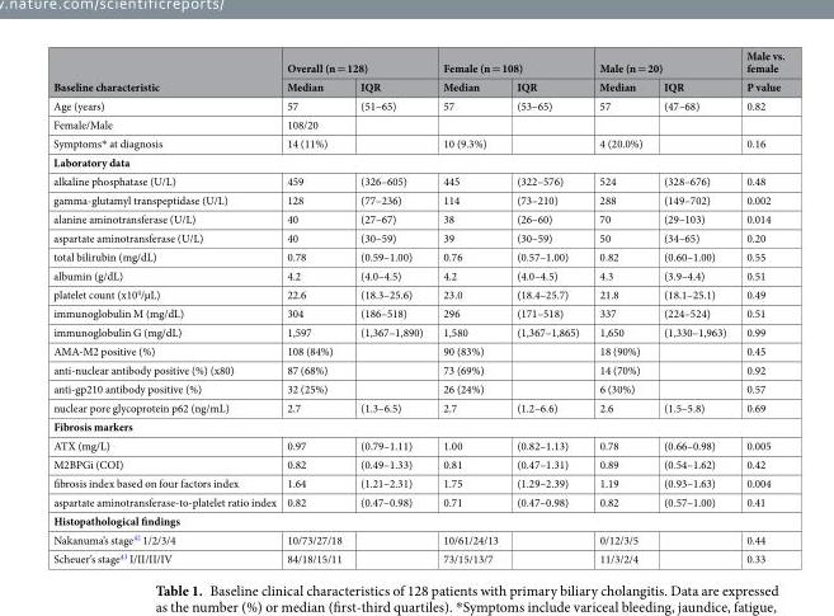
<table><thead><tr><td rowspan="2">Baseline characteristic</td><td colspan="2">Overall (n = 128)</td><td colspan="2">Female (n = 108)</td><td colspan="2">Male (n = 20)</td><td rowspan="2">Male vs. female P value</td></tr><tr><td>Median</td><td>IQR</td><td>Median</td><td>IQR</td><td>Median</td><td>IQR</td></tr></thead><tbody><tr><td>Age (years)</td><td>57</td><td>(51–65)</td><td>57</td><td>(53–65)</td><td>57</td><td>(47–68)</td><td>0.82</td></tr><tr><td>Female/Male</td><td>108/20</td><td></td><td></td><td></td><td></td><td></td><td></td></tr><tr><td>Symptoms* at diagnosis</td><td>14 (11%)</td><td></td><td>10 (9.3%)</td><td></td><td>4 (20.0%)</td><td></td><td>0.16</td></tr><tr><td colspan="8">Laboratory data</td></tr><tr><td>alkaline phosphatase (U/L)</td><td>459</td><td>(326–605)</td><td>445</td><td>(322–576)</td><td>524</td><td>(328–676)</td><td>0.48</td></tr><tr><td>gamma-glutamyl transpeptidase (U/L)</td><td>128</td><td>(77–236)</td><td>114</td><td>(73–210)</td><td>288</td><td>(149–702)</td><td>0.002</td></tr><tr><td>alanine aminotransferase (U/L)</td><td>40</td><td>(27–67)</td><td>38</td><td>(26–60)</td><td>70</td><td>(29–103)</td><td>0.014</td></tr><tr><td>aspartate aminotransferase (U/L)</td><td>40</td><td>(30–59)</td><td>39</td><td>(30–59)</td><td>50</td><td>(34–65)</td><td>0.20</td></tr><tr><td>total bilirubin (mg/dL)</td><td>0.78</td><td>(0.59–1.00)</td><td>0.76</td><td>(0.57–1.00)</td><td>0.82</td><td>(0.60–1.00)</td><td>0.55</td></tr><tr><td>albumin (g/dL)</td><td>4.2</td><td>(4.0–4.5)</td><td>4.2</td><td>(4.0–4.5)</td><td>4.3</td><td>(3.9–4.4)</td><td>0.51</td></tr><tr><td>platelet count (x10<sup>4</sup>/µL)</td><td>22.6</td><td>(18.3–25.6)</td><td>23.0</td><td>(18.4–25.7)</td><td>21.8</td><td>(18.1–25.1)</td><td>0.49</td></tr><tr><td>immunoglobulin M (mg/dL)</td><td>304</td><td>(186–518)</td><td>296</td><td>(171–518)</td><td>337</td><td>(224–524)</td><td>0.51</td></tr><tr><td>immunoglobulin G (mg/dL)</td><td>1,597</td><td>(1,367–1,890)</td><td>1,580</td><td>(1,367–1,865)</td><td>1,650</td><td>(1,330–1,963)</td><td>0.99</td></tr><tr><td>AMA-M2 positive (%)</td><td>108 (84%)</td><td></td><td>90 (83%)</td><td></td><td>18 (90%)</td><td></td><td>0.45</td></tr><tr><td>anti-nuclear antibody positive (%) (x80)</td><td>87 (68%)</td><td></td><td>73 (69%)</td><td></td><td>14 (70%)</td><td></td><td>0.92</td></tr><tr><td>anti-gp210 antibody positive (%)</td><td>32 (25%)</td><td></td><td>26 (24%)</td><td></td><td>6 (30%)</td><td></td><td>0.57</td></tr><tr><td>nuclear pore glycoprotein p62 (ng/mL)</td><td>2.7</td><td>(1.3–6.5)</td><td>2.7</td><td>(1.2–6.6)</td><td>2.6</td><td>(1.5–5.8)</td><td>0.69</td></tr><tr><td colspan="8">Fibrosis markers</td></tr><tr><td>ATX (mg/L)</td><td>0.97</td><td>(0.79–1.11)</td><td>1.00</td><td>(0.82–1.13)</td><td>0.78</td><td>(0.66–0.98)</td><td>0.005</td></tr><tr><td>M2BPGi (COI)</td><td>0.82</td><td>(0.49–1.33)</td><td>0.81</td><td>(0.47–1.31)</td><td>0.89</td><td>(0.54–1.62)</td><td>0.42</td></tr><tr><td>fibrosis index based on four factors index</td><td>1.64</td><td>(1.21–2.31)</td><td>1.75</td><td>(1.29–2.39)</td><td>1.19</td><td>(0.93–1.63)</td><td>0.004</td></tr><tr><td>aspartate aminotransferase-to-platelet ratio index</td><td>0.82</td><td>(0.47–0.98)</td><td>0.71</td><td>(0.47–0.98)</td><td>0.82</td><td>(0.57–1.00)</td><td>0.41</td></tr><tr><td colspan="8">Histopathological findings</td></tr><tr><td>Nakanuma’s stage<sup>42</sup> 1/2/3/4</td><td>10/73/27/18</td><td></td><td>10/61/24/13</td><td></td><td>0/12/3/5</td><td></td><td>0.44</td></tr><tr><td>Scheuer’s stage<sup>43</sup> I/II/II/IV</td><td>84/18/15/11</td><td></td><td>73/15/13/7</td><td></td><td>11/3/2/4</td><td></td><td>0.33</td></tr></tbody></table>